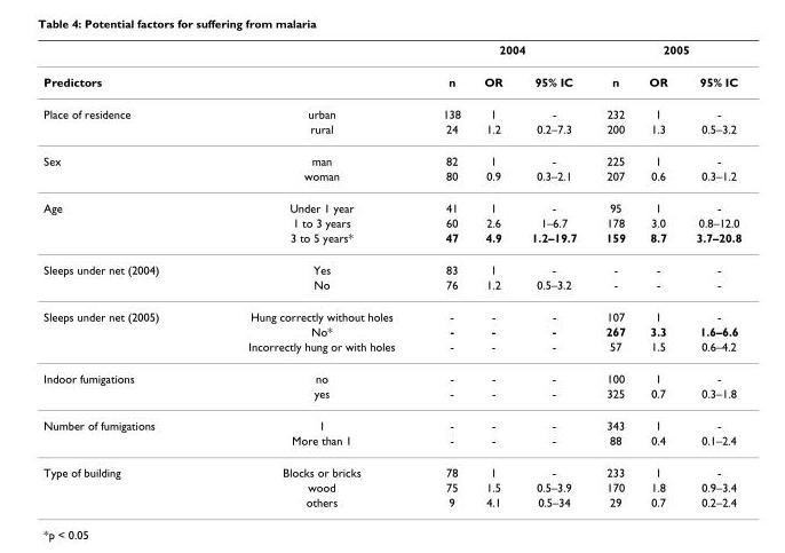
<table><thead><tr><td rowspan="2">Predictors</td><td rowspan="2"></td><td colspan="3">2004</td><td colspan="3">2005</td></tr><tr><td>n</td><td>OR</td><td>95% IC</td><td>n</td><td>OR</td><td>95% IC</td></tr></thead><tbody><tr><td rowspan="2">Place of residence</td><td>urban</td><td>138</td><td>1</td><td>-</td><td>232</td><td>1</td><td>-</td></tr><tr><td>rural</td><td>24</td><td>1.2</td><td>0.2–7.3</td><td>200</td><td>1.3</td><td>0.5–3.2</td></tr><tr><td rowspan="2">Sex</td><td>man</td><td>82</td><td>1</td><td>-</td><td>225</td><td>1</td><td>-</td></tr><tr><td>woman</td><td>80</td><td>0.9</td><td>0.3–2.1</td><td>207</td><td>0.6</td><td>0.3–1.2</td></tr><tr><td rowspan="3">Age</td><td>Under 1 year</td><td>41</td><td>1</td><td>-</td><td>95</td><td>1</td><td>-</td></tr><tr><td>1 to 3 years</td><td>60</td><td>2.6</td><td>1–6.7</td><td>178</td><td>3.0</td><td>0.8–12.0</td></tr><tr><td>3 to 5 years*</td><td>47</td><td>4.9</td><td>1.2–19.7</td><td>159</td><td>8.7</td><td>3.7–20.8</td></tr><tr><td rowspan="2">Sleeps under net (2004)</td><td>Yes</td><td>83</td><td>1</td><td>-</td><td>-</td><td>-</td><td>-</td></tr><tr><td>No</td><td>76</td><td>1.2</td><td>0.5–3.2</td><td>-</td><td>-</td><td>-</td></tr><tr><td rowspan="3">Sleeps under net (2005)</td><td>Hung correctly without holes</td><td>-</td><td>-</td><td>-</td><td>107</td><td>1</td><td>-</td></tr><tr><td>No*</td><td>-</td><td>-</td><td>-</td><td>267</td><td>3.3</td><td>1.6–6.6</td></tr><tr><td>Incorrectly hung or with holes</td><td>-</td><td>-</td><td>-</td><td>57</td><td>1.5</td><td>0.6–4.2</td></tr><tr><td rowspan="2">Indoor fumigations</td><td>no</td><td>-</td><td>-</td><td>-</td><td>100</td><td>1</td><td>-</td></tr><tr><td>yes</td><td>-</td><td>-</td><td>-</td><td>325</td><td>0.7</td><td>0.3–1.8</td></tr><tr><td rowspan="2">Number of fumigations</td><td>1</td><td>-</td><td>-</td><td>-</td><td>343</td><td>1</td><td>-</td></tr><tr><td>More than 1</td><td>-</td><td>-</td><td>-</td><td>88</td><td>0.4</td><td>0.1–2.4</td></tr><tr><td rowspan="3">Type of building</td><td>Blocks or bricks</td><td>78</td><td>1</td><td>-</td><td>233</td><td>1</td><td>-</td></tr><tr><td>wood</td><td>75</td><td>1.5</td><td>0.5–3.9</td><td>170</td><td>1.8</td><td>0.9–3.4</td></tr><tr><td>others</td><td>9</td><td>4.1</td><td>0.5–34</td><td>29</td><td>0.7</td><td>0.2–2.4</td></tr></tbody></table>